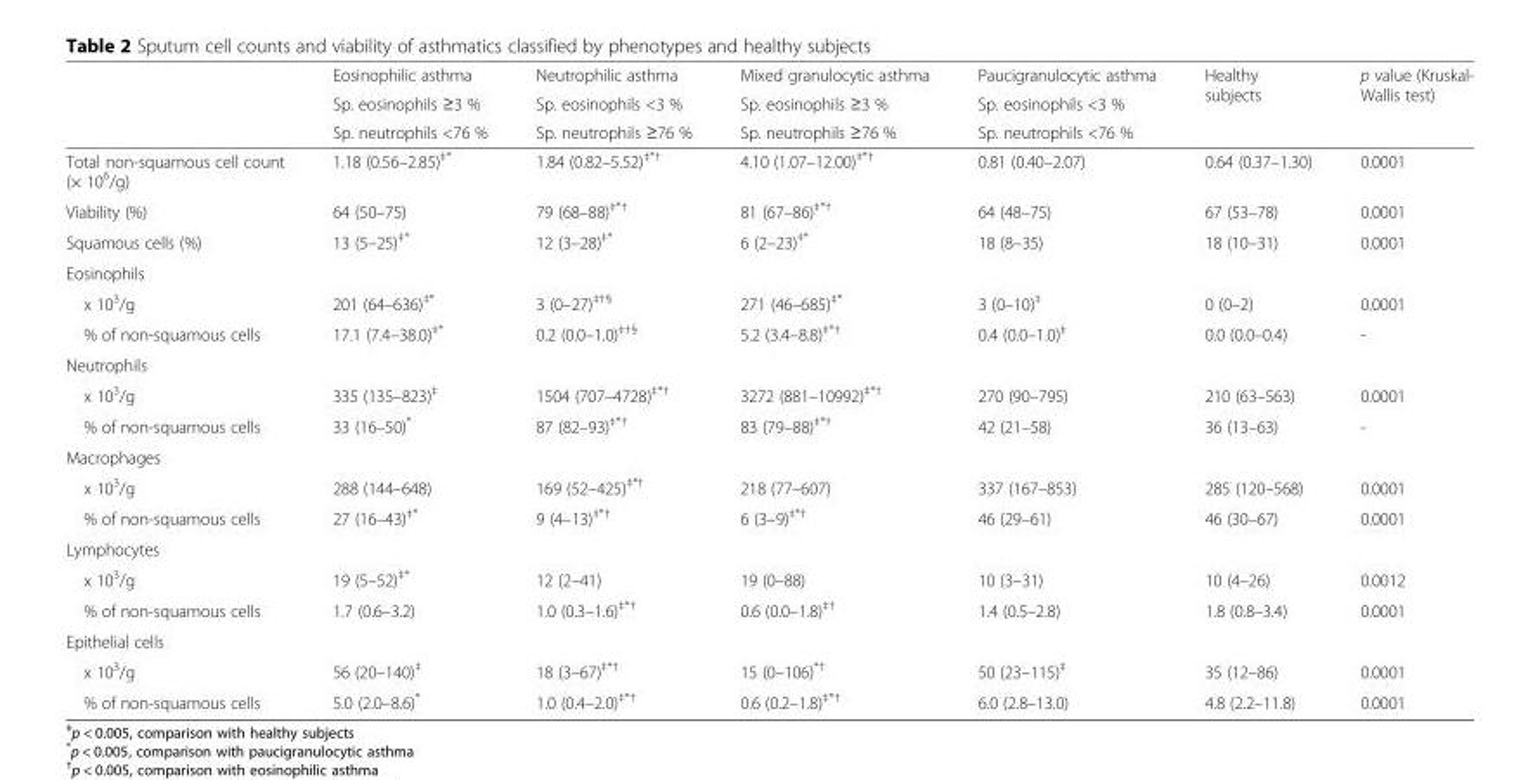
<table><thead><tr><td rowspan="3"></td><td rowspan="3">Eosinophilic asthma Sp. eosinophils ≥3 % Sp. neutrophils &lt;76 %</td><td rowspan="3">Neutrophilic asthma Sp. eosinophils &lt;3 % Sp. neutrophils ≥76 %</td><td rowspan="3">Mixed granulocytic asthma Sp. eosinophils ≥3 % Sp. neutrophils ≥76 %</td><td rowspan="3">Paucigranulocytic asthma Sp. eosinophils &lt;3 % Sp. neutrophils &lt;76 %</td><td rowspan="3">Healthy subjects</td><td rowspan="3">p value (Kruskal- Wallis test)</td></tr><tr></tr><tr></tr></thead><tbody><tr><td>Total non-squamous cell count (× 10<sup>6</sup>/g)</td><td>1.18 (0.56–2.85)<sup>‡*</sup></td><td>1.84 (0.82–5.52)<sup>‡*†</sup></td><td>4.10 (1.07–12.00)<sup>‡*†</sup></td><td>0.81 (0.40–2.07)</td><td>0.64 (0.37–1.30)</td><td>0.0001</td></tr><tr><td>Viability (%)</td><td>64 (50–75)</td><td>79 (68–88)<sup>‡*†</sup></td><td>81 (67–86)<sup>‡*†</sup></td><td>64 (48–75)</td><td>67 (53–78)</td><td>0.0001</td></tr><tr><td>Squamous cells (%)</td><td>13 (5–25)<sup>‡*</sup></td><td>12 (3–28)<sup>‡*</sup></td><td>6 (2–23)<sup>‡*</sup></td><td>18 (8–35)</td><td>18 (10–31)</td><td>0.0001</td></tr><tr><td colspan="7">Eosinophils</td></tr><tr><td>x 10<sup>3</sup>/g</td><td>201 (64–636)<sup>‡*</sup></td><td>3 (0–27)<sup>‡†§</sup></td><td>271 (46–685)<sup>‡*</sup></td><td>3 (0–10)<sup>‡</sup></td><td>0 (0–2)</td><td>0.0001</td></tr><tr><td>% of non-squamous cells</td><td>17.1 (7.4–38.0)<sup>‡*</sup></td><td>0.2 (0.0–1.0)<sup>‡†§</sup></td><td>5.2 (3.4–8.8)<sup>‡*†</sup></td><td>0.4 (0.0–1.0)<sup>‡</sup></td><td>0.0 (0.0–0.4)</td><td>-</td></tr><tr><td colspan="7">Neutrophils</td></tr><tr><td>x 10<sup>3</sup>/g</td><td>335 (135–823)<sup>‡</sup></td><td>1504 (707–4728)<sup>‡*†</sup></td><td>3272 (881–10992)<sup>‡*†</sup></td><td>270 (90–795)</td><td>210 (63–563)</td><td>0.0001</td></tr><tr><td>% of non-squamous cells</td><td>33 (16–50)*</td><td>87 (82–93)<sup>‡*†</sup></td><td>83 (79–88)<sup>‡*†</sup></td><td>42 (21–58)</td><td>36 (13–63)</td><td>-</td></tr><tr><td colspan="7">Macrophages</td></tr><tr><td>x 10<sup>3</sup>/g</td><td>288 (144–648)</td><td>169 (52–425)<sup>‡*†</sup></td><td>218 (77–607)</td><td>337 (167–853)</td><td>285 (120–568)</td><td>0.0001</td></tr><tr><td>% of non-squamous cells</td><td>27 (16–43)<sup>‡*</sup></td><td>9 (4–13)<sup>‡*†</sup></td><td>6 (3–9)<sup>‡*†</sup></td><td>46 (29–61)</td><td>46 (30–67)</td><td>0.0001</td></tr><tr><td colspan="7">Lymphocytes</td></tr><tr><td>x 10<sup>3</sup>/g</td><td>19 (5–52)<sup>‡*</sup></td><td>12 (2–41)</td><td>19 (0–88)</td><td>10 (3–31)</td><td>10 (4–26)</td><td>0.0012</td></tr><tr><td>% of non-squamous cells</td><td>1.7 (0.6–3.2)</td><td>1.0 (0.3–1.6)<sup>‡*†</sup></td><td>0.6 (0.0–1.8)<sup>‡†</sup></td><td>1.4 (0.5–2.8)</td><td>1.8 (0.8–3.4)</td><td>0.0001</td></tr><tr><td colspan="7">Epithelial cells</td></tr><tr><td>x 10<sup>3</sup>/g</td><td>56 (20–140)<sup>‡</sup></td><td>18 (3–67)<sup>‡*†</sup></td><td>15 (0–106)<sup>*†</sup></td><td>50 (23–115)<sup>‡</sup></td><td>35 (12–86)</td><td>0.0001</td></tr><tr><td>% of non-squamous cells</td><td>5.0 (2.0–8.6)*</td><td>1.0 (0.4–2.0)<sup>‡*†</sup></td><td>0.6 (0.2–1.8)<sup>‡*†</sup></td><td>6.0 (2.8–13.0)</td><td>4.8 (2.2–11.8)</td><td>0.0001</td></tr></tbody></table>